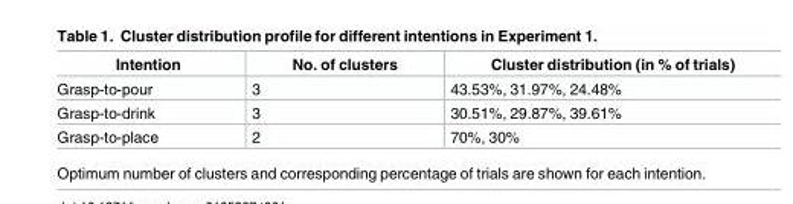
<table><thead><tr><td>Intention</td><td>No. of clusters</td><td>Cluster distribution (in % of trials)</td></tr></thead><tbody><tr><td>Grasp-to-pour</td><td>3</td><td>43.53%, 31.97%, 24.48%</td></tr><tr><td>Grasp-to-drink</td><td>3</td><td>30.51%, 29.87%, 39.61%</td></tr><tr><td>Grasp-to-place</td><td>2</td><td>70%, 30%</td></tr></tbody></table>